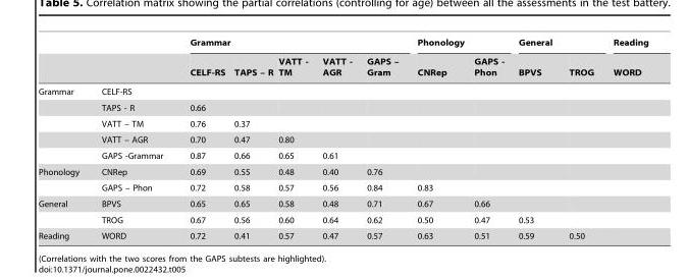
<table><thead><tr><td rowspan="2"></td><td rowspan="2"></td><td colspan="5">Grammar</td><td colspan="2">Phonology</td><td colspan="2">General</td><td rowspan="2">Reading WORD</td></tr><tr><td>CELF-RS</td><td>TAPS – R</td><td>VATT - TM</td><td>VATT - AGR</td><td>GAPS – Gram</td><td>CNRep</td><td>GAPS - Phon</td><td>BPVS</td><td>TROG</td></tr></thead><tbody><tr><td rowspan="5">Grammar</td><td>CELF-RS</td><td></td><td></td><td></td><td></td><td></td><td></td><td></td><td></td><td></td><td></td></tr><tr><td>TAPS - R</td><td>0.66</td><td></td><td></td><td></td><td></td><td></td><td></td><td></td><td></td><td></td></tr><tr><td>VATT – TM</td><td>0.76</td><td>0.37</td><td></td><td></td><td></td><td></td><td></td><td></td><td></td><td></td></tr><tr><td>VATT – AGR</td><td>0.70</td><td>0.47</td><td>0.80</td><td></td><td></td><td></td><td></td><td></td><td></td><td></td></tr><tr><td>GAPS -Grammar</td><td>0.87</td><td>0.66</td><td>0.65</td><td>0.61</td><td></td><td></td><td></td><td></td><td></td><td></td></tr><tr><td rowspan="2">Phonology</td><td>CNRep</td><td>0.69</td><td>0.55</td><td>0.48</td><td>0.40</td><td>0.76</td><td></td><td></td><td></td><td></td><td></td></tr><tr><td>GAPS – Phon</td><td>0.72</td><td>0.58</td><td>0.57</td><td>0.56</td><td>0.84</td><td>0.83</td><td></td><td></td><td></td><td></td></tr><tr><td rowspan="2">General</td><td>BPVS</td><td>0.65</td><td>0.65</td><td>0.58</td><td>0.48</td><td>0.71</td><td>0.67</td><td>0.66</td><td></td><td></td><td></td></tr><tr><td>TROG</td><td>0.67</td><td>0.56</td><td>0.60</td><td>0.64</td><td>0.62</td><td>0.50</td><td>0.47</td><td>0.53</td><td></td><td></td></tr><tr><td>Reading</td><td>WORD</td><td>0.72</td><td>0.41</td><td>0.57</td><td>0.47</td><td>0.57</td><td>0.63</td><td>0.51</td><td>0.59</td><td>0.50</td><td></td></tr></tbody></table>